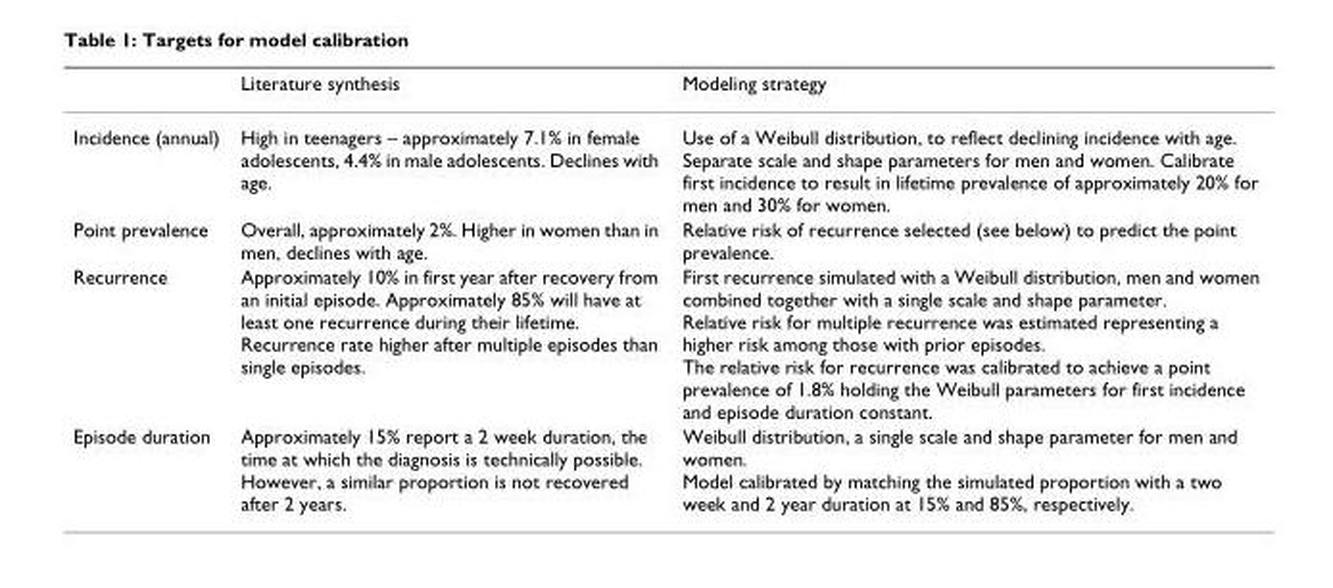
<table><thead><tr><td></td><td>Literature synthesis</td><td>Modeling strategy</td></tr></thead><tbody><tr><td>Incidence (annual)</td><td>High in teenagers – approximately 7.1% in female adolescents, 4.4% in male adolescents. Declines with age.</td><td>Use of a Weibull distribution, to reflect declining incidence with age. Separate scale and shape parameters for men and women. Calibrate first incidence to result in lifetime prevalence of approximately 20% for men and 30% for women.</td></tr><tr><td>Point prevalence</td><td>Overall, approximately 2%. Higher in women than in men, declines with age.</td><td>Relative risk of recurrence selected (see below) to predict the point prevalence.</td></tr><tr><td>Recurrence</td><td>Approximately 10% in first year after recovery from an initial episode. Approximately 85% will have at least one recurrence during their lifetime. Recurrence rate higher after multiple episodes than single episodes.</td><td>First recurrence simulated with a Weibull distribution, men and women combined together with a single scale and shape parameter. Relative risk for multiple recurrence was estimated representing a higher risk among those with prior episodes. The relative risk for recurrence was calibrated to achieve a point prevalence of 1.8% holding the Weibull parameters for first incidence and episode duration constant.</td></tr><tr><td>Episode duration</td><td>Approximately 15% report a 2 week duration, the time at which the diagnosis is technically possible. However, a similar proportion is not recovered after 2 years.</td><td>Weibull distribution, a single scale and shape parameter for men and women. Model calibrated by matching the simulated proportion with a two week and 2 year duration at 15% and 85%, respectively.</td></tr></tbody></table>